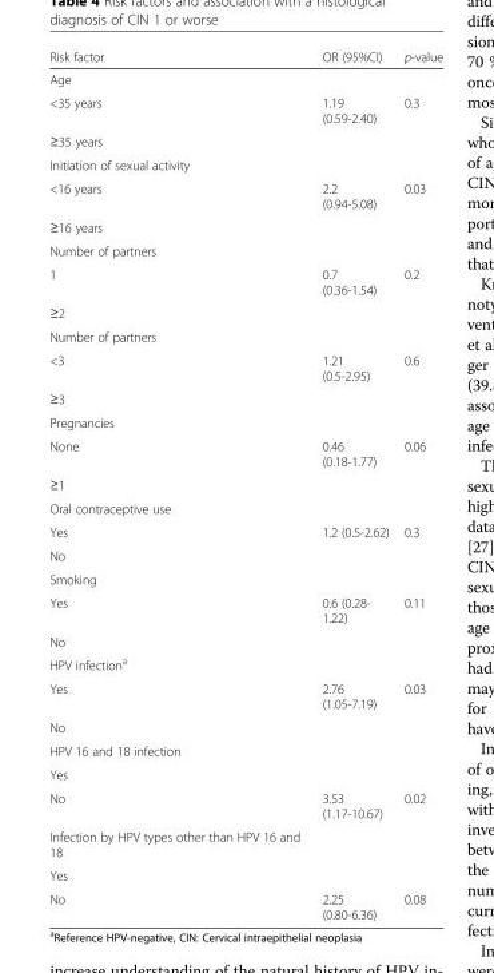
<table><thead><tr><td>Risk factor</td><td>OR (95%CI)</td><td>p-value</td></tr></thead><tbody><tr><td colspan="3">Age</td></tr><tr><td>&lt;35 years</td><td>1.19 (0.59-2.40)</td><td>0.3</td></tr><tr><td colspan="3">≥35 years</td></tr><tr><td colspan="3">Initiation of sexual activity</td></tr><tr><td>&lt;16 years</td><td>2.2 (0.94-5.08)</td><td>0.03</td></tr><tr><td colspan="3">≥16 years</td></tr><tr><td colspan="3">Number of partners</td></tr><tr><td>1</td><td>0.7 (0.36-1.54)</td><td>0.2</td></tr><tr><td colspan="3">≥2</td></tr><tr><td colspan="3">Number of partners</td></tr><tr><td>&lt;3</td><td>1.21 (0.5-2.95)</td><td>0.6</td></tr><tr><td colspan="3">≥3</td></tr><tr><td colspan="3">Pregnancies</td></tr><tr><td>None</td><td>0.46 (0.18-1.77)</td><td>0.06</td></tr><tr><td colspan="3">≥1</td></tr><tr><td colspan="3">Oral contraceptive use</td></tr><tr><td>Yes</td><td>1.2 (0.5-2.62)</td><td>0.3</td></tr><tr><td colspan="3">No</td></tr><tr><td colspan="3">Smoking</td></tr><tr><td>Yes</td><td>0.6 (0.28- 1.22)</td><td>0.11</td></tr><tr><td colspan="3">No</td></tr><tr><td colspan="3">HPV infection<sup>a</sup></td></tr><tr><td>Yes</td><td>2.76 (1.05-7.19)</td><td>0.03</td></tr><tr><td colspan="3">No</td></tr><tr><td colspan="3">HPV 16 and 18 infection</td></tr><tr><td colspan="3">Yes</td></tr><tr><td>No</td><td>3.53 (1.17-10.67)</td><td>0.02</td></tr><tr><td colspan="3">Infection by HPV types other than HPV 16 and 18</td></tr><tr><td colspan="3">Yes</td></tr><tr><td>No</td><td>2.25 (0.80-6.36)</td><td>0.08</td></tr></tbody></table>